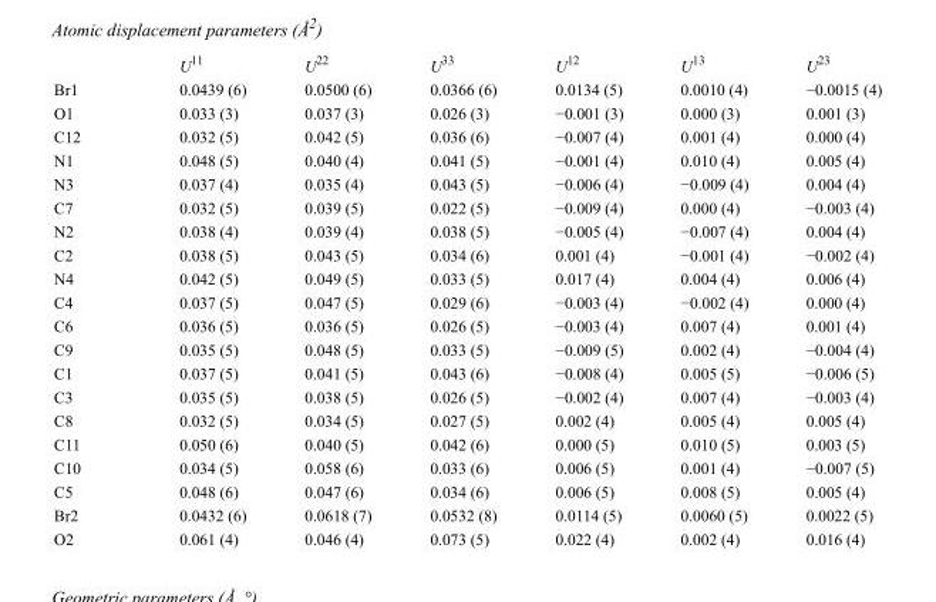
<table><thead><tr><td></td><td>U<sup>11</sup></td><td>U<sup>22</sup></td><td>U<sup>33</sup></td><td>U<sup>12</sup></td><td>U<sup>13</sup></td><td>U<sup>23</sup></td></tr></thead><tbody><tr><td>Br1</td><td>0.0439 (6)</td><td>0.0500 (6)</td><td>0.0366 (6)</td><td>0.0134 (5)</td><td>0.0010 (4)</td><td>−0.0015 (4)</td></tr><tr><td>O1</td><td>0.033 (3)</td><td>0.037 (3)</td><td>0.026 (3)</td><td>−0.001 (3)</td><td>0.000 (3)</td><td>0.001 (3)</td></tr><tr><td>C12</td><td>0.032 (5)</td><td>0.042 (5)</td><td>0.036 (6)</td><td>−0.007 (4)</td><td>0.001 (4)</td><td>0.000 (4)</td></tr><tr><td>N1</td><td>0.048 (5)</td><td>0.040 (4)</td><td>0.041 (5)</td><td>−0.001 (4)</td><td>0.010 (4)</td><td>0.005 (4)</td></tr><tr><td>N3</td><td>0.037 (4)</td><td>0.035 (4)</td><td>0.043 (5)</td><td>−0.006 (4)</td><td>−0.009 (4)</td><td>0.004 (4)</td></tr><tr><td>C7</td><td>0.032 (5)</td><td>0.039 (5)</td><td>0.022 (5)</td><td>−0.009 (4)</td><td>0.000 (4)</td><td>−0.003 (4)</td></tr><tr><td>N2</td><td>0.038 (4)</td><td>0.039 (4)</td><td>0.038 (5)</td><td>−0.005 (4)</td><td>−0.007 (4)</td><td>0.004 (4)</td></tr><tr><td>C2</td><td>0.038 (5)</td><td>0.043 (5)</td><td>0.034 (6)</td><td>0.001 (4)</td><td>−0.001 (4)</td><td>−0.002 (4)</td></tr><tr><td>N4</td><td>0.042 (5)</td><td>0.049 (5)</td><td>0.033 (5)</td><td>0.017 (4)</td><td>0.004 (4)</td><td>0.006 (4)</td></tr><tr><td>C4</td><td>0.037 (5)</td><td>0.047 (5)</td><td>0.029 (6)</td><td>−0.003 (4)</td><td>−0.002 (4)</td><td>0.000 (4)</td></tr><tr><td>C6</td><td>0.036 (5)</td><td>0.036 (5)</td><td>0.026 (5)</td><td>−0.003 (4)</td><td>0.007 (4)</td><td>0.001 (4)</td></tr><tr><td>C9</td><td>0.035 (5)</td><td>0.048 (5)</td><td>0.033 (5)</td><td>−0.009 (5)</td><td>0.002 (4)</td><td>−0.004 (4)</td></tr><tr><td>C1</td><td>0.037 (5)</td><td>0.041 (5)</td><td>0.043 (6)</td><td>−0.008 (4)</td><td>0.005 (5)</td><td>−0.006 (5)</td></tr><tr><td>C3</td><td>0.035 (5)</td><td>0.038 (5)</td><td>0.026 (5)</td><td>−0.002 (4)</td><td>0.007 (4)</td><td>−0.003 (4)</td></tr><tr><td>C8</td><td>0.032 (5)</td><td>0.034 (5)</td><td>0.027 (5)</td><td>0.002 (4)</td><td>0.005 (4)</td><td>0.005 (4)</td></tr><tr><td>C11</td><td>0.050 (6)</td><td>0.040 (5)</td><td>0.042 (6)</td><td>0.000 (5)</td><td>0.010 (5)</td><td>0.003 (5)</td></tr><tr><td>C10</td><td>0.034 (5)</td><td>0.058 (6)</td><td>0.033 (6)</td><td>0.006 (5)</td><td>0.001 (4)</td><td>−0.007 (5)</td></tr><tr><td>C5</td><td>0.048 (6)</td><td>0.047 (6)</td><td>0.034 (6)</td><td>0.006 (5)</td><td>0.008 (5)</td><td>0.005 (4)</td></tr><tr><td>Br2</td><td>0.0432 (6)</td><td>0.0618 (7)</td><td>0.0532 (8)</td><td>0.0114 (5)</td><td>0.0060 (5)</td><td>0.0022 (5)</td></tr><tr><td>O2</td><td>0.061 (4)</td><td>0.046 (4)</td><td>0.073 (5)</td><td>0.022 (4)</td><td>0.002 (4)</td><td>0.016 (4)</td></tr></tbody></table>